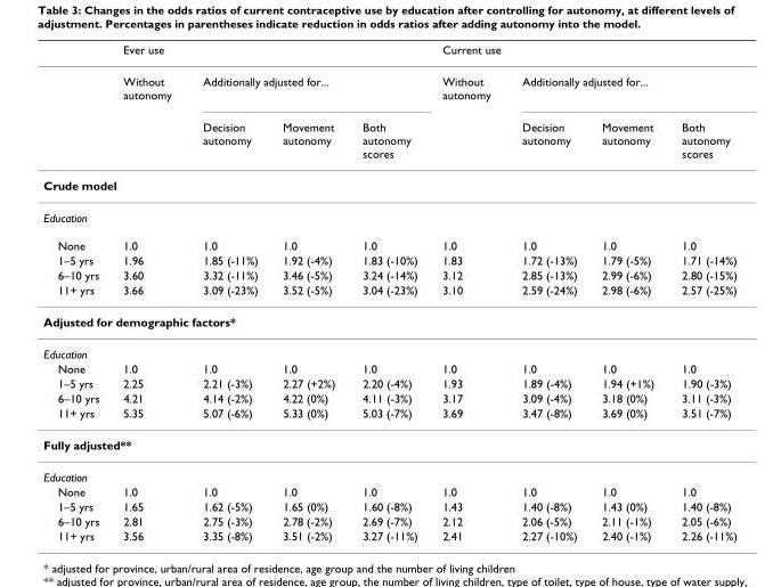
<table><thead><tr><td rowspan="3"></td><td colspan="4">Ever use</td><td colspan="4">Current use</td></tr><tr><td rowspan="2">Without autonomy</td><td colspan="3">Additionally adjusted for...</td><td rowspan="2">Without autonomy</td><td colspan="3">Additionally adjusted for...</td></tr><tr><td>Decision autonomy</td><td>Movement autonomy</td><td>Both autonomy scores</td><td>Decision autonomy</td><td>Movement autonomy</td><td>Both autonomy scores</td></tr></thead><tbody><tr><td colspan="9">Crude model</td></tr><tr><td colspan="9">Education</td></tr><tr><td>None</td><td>1.0</td><td>1.0</td><td>1.0</td><td>1.0</td><td>1.0</td><td>1.0</td><td>1.0</td><td>1.0</td></tr><tr><td>1–5 yrs</td><td>1.96</td><td>1.85 (-11%)</td><td>1.92 (-4%)</td><td>1.83 (-10%)</td><td>1.83</td><td>1.72 (-13%)</td><td>1.79 (-5%)</td><td>1.71 (-14%)</td></tr><tr><td>6–10 yrs</td><td>3.60</td><td>3.32 (-11%)</td><td>3.46 (-5%)</td><td>3.24 (-14%)</td><td>3.12</td><td>2.85 (-13%)</td><td>2.99 (-6%)</td><td>2.80 (-15%)</td></tr><tr><td>11+ yrs</td><td>3.66</td><td>3.09 (-23%)</td><td>3.52 (-5%)</td><td>3.04 (-23%)</td><td>3.10</td><td>2.59 (-24%)</td><td>2.98 (-6%)</td><td>2.57 (-25%)</td></tr><tr><td colspan="9">Adjusted for demographic factors*</td></tr><tr><td colspan="9">Education</td></tr><tr><td>None</td><td>1.0</td><td>1.0</td><td>1.0</td><td>1.0</td><td>1.0</td><td>1.0</td><td>1.0</td><td>1.0</td></tr><tr><td>1–5 yrs</td><td>2.25</td><td>2.21 (-3%)</td><td>2.27 (+2%)</td><td>2.20 (-4%)</td><td>1.93</td><td>1.89 (-4%)</td><td>1.94 (+1%)</td><td>1.90 (-3%)</td></tr><tr><td>6–10 yrs</td><td>4.21</td><td>4.14 (-2%)</td><td>4.22 (0%)</td><td>4.11 (-3%)</td><td>3.17</td><td>3.09 (-4%)</td><td>3.18 (0%)</td><td>3.11 (-3%)</td></tr><tr><td>11+ yrs</td><td>5.35</td><td>5.07 (-6%)</td><td>5.33 (0%)</td><td>5.03 (-7%)</td><td>3.69</td><td>3.47 (-8%)</td><td>3.69 (0%)</td><td>3.51 (-7%)</td></tr><tr><td colspan="9">Fully adjusted**</td></tr><tr><td colspan="9">Education</td></tr><tr><td>None</td><td>1.0</td><td>1.0</td><td>1.0</td><td>1.0</td><td>1.0</td><td>1.0</td><td>1.0</td><td>1.0</td></tr><tr><td>1–5 yrs</td><td>1.65</td><td>1.62 (-5%)</td><td>1.65 (0%)</td><td>1.60 (-8%)</td><td>1.43</td><td>1.40 (-8%)</td><td>1.43 (0%)</td><td>1.40 (-8%)</td></tr><tr><td>6–10 yrs</td><td>2.81</td><td>2.75 (-3%)</td><td>2.78 (-2%)</td><td>2.69 (-7%)</td><td>2.12</td><td>2.06 (-5%)</td><td>2.11 (-1%)</td><td>2.05 (-6%)</td></tr><tr><td>11+ yrs</td><td>3.56</td><td>3.35 (-8%)</td><td>3.51 (-2%)</td><td>3.27 (-11%)</td><td>2.41</td><td>2.27 (-10%)</td><td>2.40 (-1%)</td><td>2.26 (-11%)</td></tr></tbody></table>